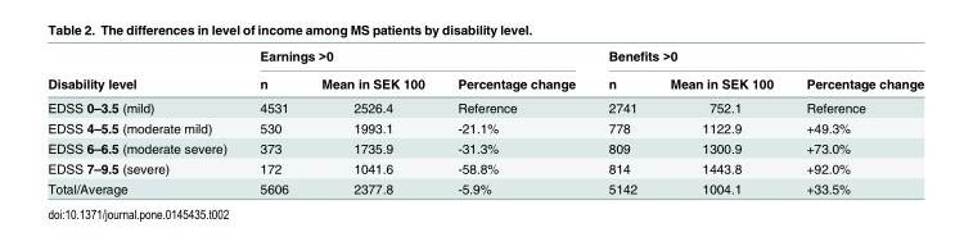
<table><thead><tr><td rowspan="2">Disability level</td><td colspan="3">Earnings &gt;0</td><td colspan="3">Benefits &gt;0</td></tr><tr><td>n</td><td>Mean in SEK 100</td><td>Percentage change</td><td>n</td><td>Mean in SEK 100</td><td>Percentage change</td></tr></thead><tbody><tr><td>EDSS 0–3.5 (mild)</td><td>4531</td><td>2526.4</td><td>Reference</td><td>2741</td><td>752.1</td><td>Reference</td></tr><tr><td>EDSS 4–5.5 (moderate mild)</td><td>530</td><td>1993.1</td><td>-21.1%</td><td>778</td><td>1122.9</td><td>+49.3%</td></tr><tr><td>EDSS 6–6.5 (moderate severe)</td><td>373</td><td>1735.9</td><td>-31.3%</td><td>809</td><td>1300.9</td><td>+73.0%</td></tr><tr><td>EDSS 7–9.5 (severe)</td><td>172</td><td>1041.6</td><td>-58.8%</td><td>814</td><td>1443.8</td><td>+92.0%</td></tr><tr><td>Total/Average</td><td>5606</td><td>2377.8</td><td>-5.9%</td><td>5142</td><td>1004.1</td><td>+33.5%</td></tr></tbody></table>